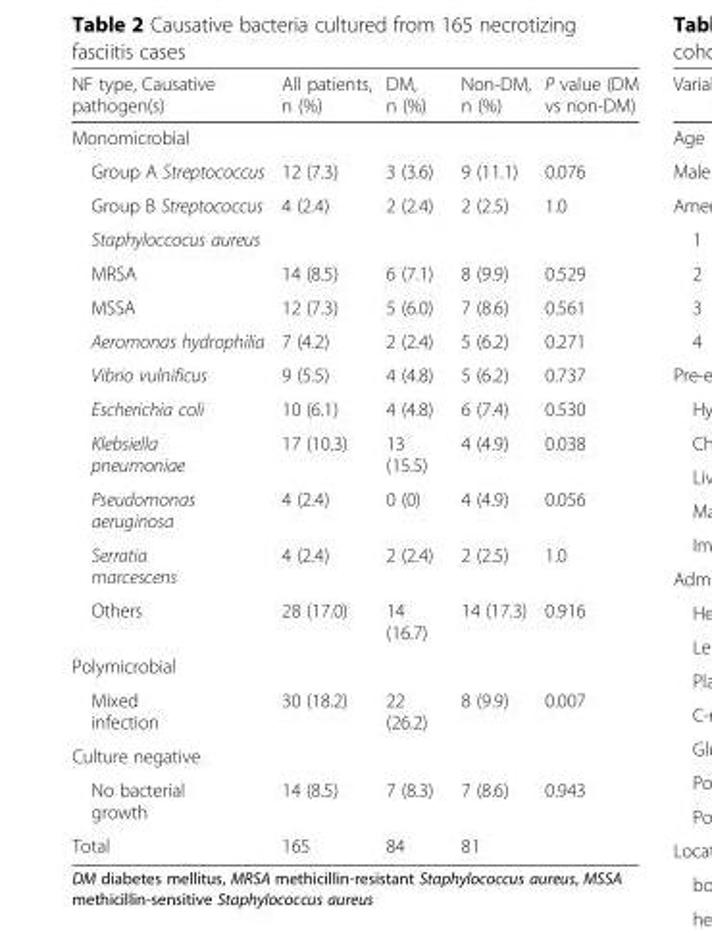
<table><thead><tr><td>NF type, Causative pathogen(s)</td><td>All patients, n (%)</td><td>DM, n (%)</td><td>Non-DM, n (%)</td><td>P value (DM vs non-DM)</td></tr></thead><tbody><tr><td colspan="5">Monomicrobial</td></tr><tr><td>Group A Streptococcus</td><td>12 (7.3)</td><td>3 (3.6)</td><td>9 (11.1)</td><td>0.076</td></tr><tr><td>Group B Streptococcus</td><td>4 (2.4)</td><td>2 (2.4)</td><td>2 (2.5)</td><td>1.0</td></tr><tr><td colspan="5">Staphyloccocus aureus</td></tr><tr><td>MRSA</td><td>14 (8.5)</td><td>6 (7.1)</td><td>8 (9.9)</td><td>0.529</td></tr><tr><td>MSSA</td><td>12 (7.3)</td><td>5 (6.0)</td><td>7 (8.6)</td><td>0.561</td></tr><tr><td>Aeromonas hydrophilia</td><td>7 (4.2)</td><td>2 (2.4)</td><td>5 (6.2)</td><td>0.271</td></tr><tr><td>Vibrio vulnificus</td><td>9 (5.5)</td><td>4 (4.8)</td><td>5 (6.2)</td><td>0.737</td></tr><tr><td>Escherichia coli</td><td>10 (6.1)</td><td>4 (4.8)</td><td>6 (7.4)</td><td>0.530</td></tr><tr><td>Klebsiella pneumoniae</td><td>17 (10.3)</td><td>13 (15.5)</td><td>4 (4.9)</td><td>0.038</td></tr><tr><td>Pseudomonas aeruginosa</td><td>4 (2.4)</td><td>0 (0)</td><td>4 (4.9)</td><td>0.056</td></tr><tr><td>Serratia marcescens</td><td>4 (2.4)</td><td>2 (2.4)</td><td>2 (2.5)</td><td>1.0</td></tr><tr><td>Others</td><td>28 (17.0)</td><td>14 (16.7)</td><td>14 (17.3)</td><td>0.916</td></tr><tr><td colspan="5">Polymicrobial</td></tr><tr><td>Mixed infection</td><td>30 (18.2)</td><td>22 (26.2)</td><td>8 (9.9)</td><td>0.007</td></tr><tr><td colspan="5">Culture negative</td></tr><tr><td>No bacterial growth</td><td>14 (8.5)</td><td>7 (8.3)</td><td>7 (8.6)</td><td>0.943</td></tr><tr><td>Total</td><td>165</td><td>84</td><td>81</td><td></td></tr></tbody></table>